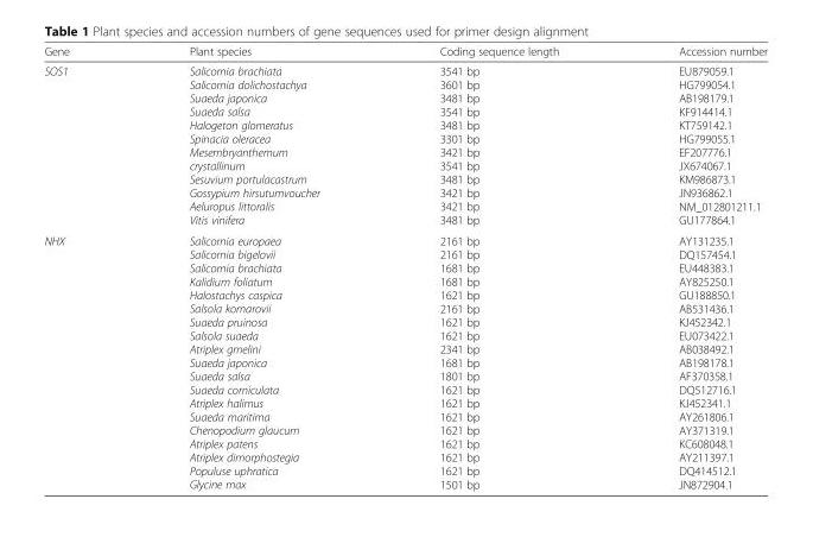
<table><thead><tr><td>Gene</td><td>Plant species</td><td>Coding sequence length</td><td>Accession number</td></tr></thead><tbody><tr><td>SOS1</td><td>Salicornia brachiata Salicornia dolichostachya Suaeda japonica Suaeda salsa Halogeton glomeratus Spinacia oleracea Mesembryanthemum crystallinum Sesuvium portulacastrum Gossypium hirsutumvoucher Aeluropus littoralis Vitis vinifera</td><td>3541 bp 3601 bp 3481 bp 3541 bp 3481 bp 3301 bp 3421 bp 3541 bp 3481 bp 3421 bp 3421 bp 3481 bp</td><td>EU879059.1 HG799054.1 AB198179.1 KF914414.1 KT759142.1 HG799055.1 EF207776.1 JX674067.1 KM986873.1 JN936862.1 NM_012801211.1 GU177864.1</td></tr><tr><td>NHX</td><td>Salicornia europaea Salicornia bigelovii Salicornia brachiata Kalidium foliatum Halostachys caspica Salsola komarovii Suaeda pruinosa Salsola suaeda Atriplex gmelini Suaeda japonica Suaeda salsa Suaeda corniculata Atriplex halimus Suaeda maritima Chenopodium glaucum Atriplex patens Atriplex dimorphostegia Populuse uphratica Glycine max</td><td>2161 bp 2161 bp 1681 bp 1681 bp 1621 bp 2161 bp 1621 bp 1621 bp 2341 bp 1681 bp 1801 bp 1621 bp 1621 bp 1621 bp 1621 bp 1621 bp 1621 bp 1621 bp 1501 bp</td><td>AY131235.1 DQ157454.1 EU448383.1 AY825250.1 GU188850.1 AB531436.1 KJ452342.1 EU073422.1 AB038492.1 AB198178.1 AF370358.1 DQ512716.1 KJ452341.1 AY261806.1 AY371319.1 KC608048.1 AY211397.1 DQ414512.1 JN872904.1</td></tr></tbody></table>